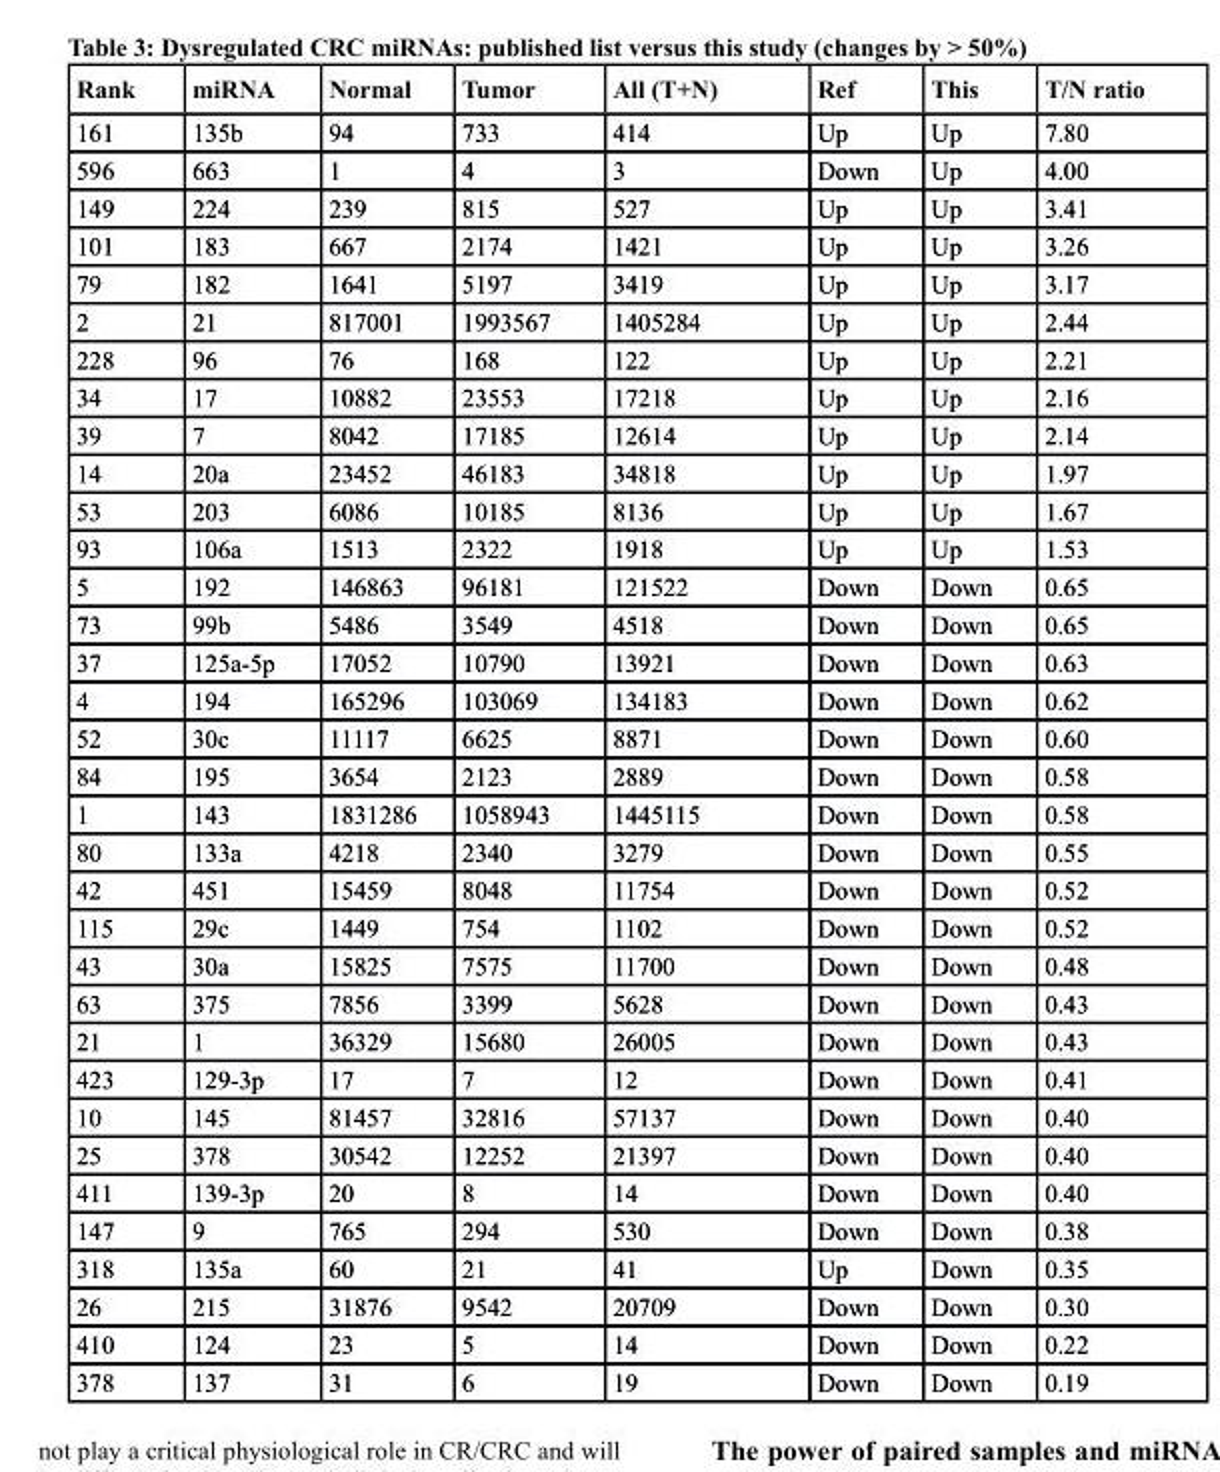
<table><thead><tr><td>rank</td><td>mirNA</td><td>Normal</td><td>tumor</td><td>All (t+N)</td><td>ref</td><td>this</td><td>t/N ratio</td></tr></thead><tbody><tr><td>161</td><td>135b</td><td>94</td><td>733</td><td>414</td><td>Up</td><td>Up</td><td>7.80</td></tr><tr><td>596</td><td>663</td><td>1</td><td>4</td><td>3</td><td>Down</td><td>Up</td><td>4.00</td></tr><tr><td>149</td><td>224</td><td>239</td><td>815</td><td>527</td><td>Up</td><td>Up</td><td>3.41</td></tr><tr><td>101</td><td>183</td><td>667</td><td>2174</td><td>1421</td><td>Up</td><td>Up</td><td>3.26</td></tr><tr><td>79</td><td>182</td><td>1641</td><td>5197</td><td>3419</td><td>Up</td><td>Up</td><td>3.17</td></tr><tr><td>2</td><td>21</td><td>817001</td><td>1993567</td><td>1405284</td><td>Up</td><td>Up</td><td>2.44</td></tr><tr><td>228</td><td>96</td><td>76</td><td>168</td><td>122</td><td>Up</td><td>Up</td><td>2.21</td></tr><tr><td>34</td><td>17</td><td>10882</td><td>23553</td><td>17218</td><td>Up</td><td>Up</td><td>2.16</td></tr><tr><td>39</td><td>7</td><td>8042</td><td>17185</td><td>12614</td><td>Up</td><td>Up</td><td>2.14</td></tr><tr><td>14</td><td>20a</td><td>23452</td><td>46183</td><td>34818</td><td>Up</td><td>Up</td><td>1.97</td></tr><tr><td>53</td><td>203</td><td>6086</td><td>10185</td><td>8136</td><td>Up</td><td>Up</td><td>1.67</td></tr><tr><td>93</td><td>106a</td><td>1513</td><td>2322</td><td>1918</td><td>Up</td><td>Up</td><td>1.53</td></tr><tr><td>5</td><td>192</td><td>146863</td><td>96181</td><td>121522</td><td>Down</td><td>Down</td><td>0.65</td></tr><tr><td>73</td><td>99b</td><td>5486</td><td>3549</td><td>4518</td><td>Down</td><td>Down</td><td>0.65</td></tr><tr><td>37</td><td>125a-5p</td><td>17052</td><td>10790</td><td>13921</td><td>Down</td><td>Down</td><td>0.63</td></tr><tr><td>4</td><td>194</td><td>165296</td><td>103069</td><td>134183</td><td>Down</td><td>Down</td><td>0.62</td></tr><tr><td>52</td><td>30c</td><td>11117</td><td>6625</td><td>8871</td><td>Down</td><td>Down</td><td>0.60</td></tr><tr><td>84</td><td>195</td><td>3654</td><td>2123</td><td>2889</td><td>Down</td><td>Down</td><td>0.58</td></tr><tr><td>1</td><td>143</td><td>1831286</td><td>1058943</td><td>1445115</td><td>Down</td><td>Down</td><td>0.58</td></tr><tr><td>80</td><td>133a</td><td>4218</td><td>2340</td><td>3279</td><td>Down</td><td>Down</td><td>0.55</td></tr><tr><td>42</td><td>451</td><td>15459</td><td>8048</td><td>11754</td><td>Down</td><td>Down</td><td>0.52</td></tr><tr><td>115</td><td>29c</td><td>1449</td><td>754</td><td>1102</td><td>Down</td><td>Down</td><td>0.52</td></tr><tr><td>43</td><td>30a</td><td>15825</td><td>7575</td><td>11700</td><td>Down</td><td>Down</td><td>0.48</td></tr><tr><td>63</td><td>375</td><td>7856</td><td>3399</td><td>5628</td><td>Down</td><td>Down</td><td>0.43</td></tr><tr><td>21</td><td>1</td><td>36329</td><td>15680</td><td>26005</td><td>Down</td><td>Down</td><td>0.43</td></tr><tr><td>423</td><td>129-3p</td><td>17</td><td>7</td><td>12</td><td>Down</td><td>Down</td><td>0.41</td></tr><tr><td>10</td><td>145</td><td>81457</td><td>32816</td><td>57137</td><td>Down</td><td>Down</td><td>0.40</td></tr><tr><td>25</td><td>378</td><td>30542</td><td>12252</td><td>21397</td><td>Down</td><td>Down</td><td>0.40</td></tr><tr><td>411</td><td>139-3p</td><td>20</td><td>8</td><td>14</td><td>Down</td><td>Down</td><td>0.40</td></tr><tr><td>147</td><td>9</td><td>765</td><td>294</td><td>530</td><td>Down</td><td>Down</td><td>0.38</td></tr><tr><td>318</td><td>135a</td><td>60</td><td>21</td><td>41</td><td>Up</td><td>Down</td><td>0.35</td></tr><tr><td>26</td><td>215</td><td>31876</td><td>9542</td><td>20709</td><td>Down</td><td>Down</td><td>0.30</td></tr><tr><td>410</td><td>124</td><td>23</td><td>5</td><td>14</td><td>Down</td><td>Down</td><td>0.22</td></tr><tr><td>378</td><td>137</td><td>31</td><td>6</td><td>19</td><td>Down</td><td>Down</td><td>0.19</td></tr></tbody></table>